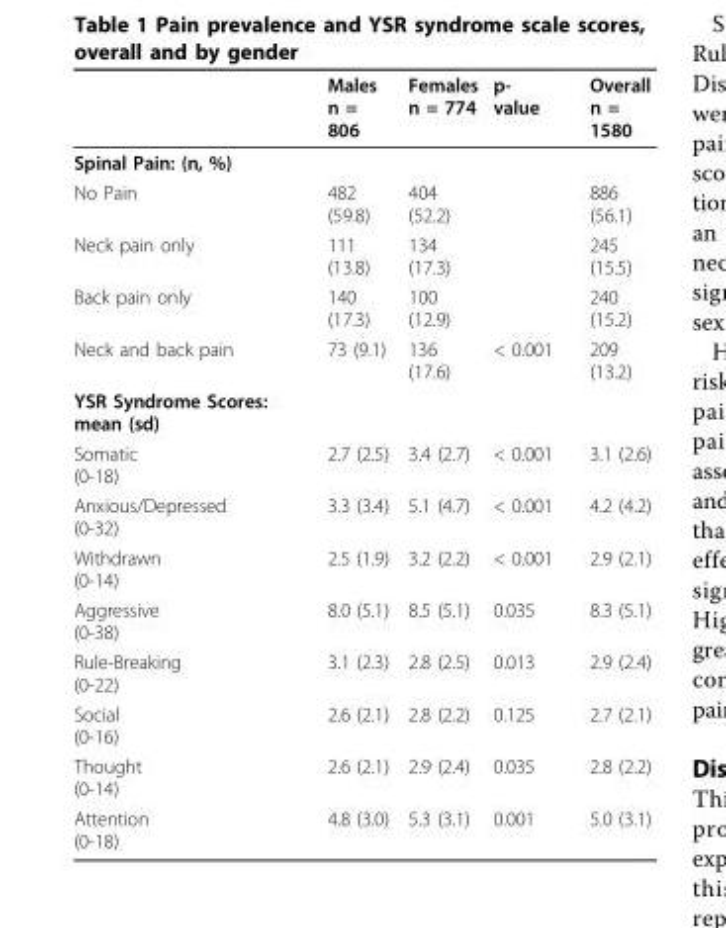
<table><thead><tr><td></td><td>Males n = 806</td><td>Females n = 774</td><td>p- value</td><td>Overall n = 1580</td></tr></thead><tbody><tr><td colspan="5">Spinal Pain: (n, %)</td></tr><tr><td>No Pain</td><td>482 (59.8)</td><td>404 (52.2)</td><td></td><td>886 (56.1)</td></tr><tr><td>Neck pain only</td><td>111 (13.8)</td><td>134 (17.3)</td><td></td><td>245 (15.5)</td></tr><tr><td>Back pain only</td><td>140 (17.3)</td><td>100 (12.9)</td><td></td><td>240 (15.2)</td></tr><tr><td>Neck and back pain</td><td>73 (9.1)</td><td>136 (17.6)</td><td>&lt; 0.001</td><td>209 (13.2)</td></tr><tr><td colspan="5">YSR Syndrome Scores: mean (sd)</td></tr><tr><td>Somatic (0-18)</td><td>2.7 (2.5)</td><td>3.4 (2.7)</td><td>&lt; 0.001</td><td>3.1 (2.6)</td></tr><tr><td>Anxious/Depressed (0-32)</td><td>3.3 (3.4)</td><td>5.1 (4.7)</td><td>&lt; 0.001</td><td>4.2 (4.2)</td></tr><tr><td>Withdrawn (0-14)</td><td>2.5 (1.9)</td><td>3.2 (2.2)</td><td>&lt; 0.001</td><td>2.9 (2.1)</td></tr><tr><td>Aggressive (0-38)</td><td>8.0 (5.1)</td><td>8.5 (5.1)</td><td>0.035</td><td>8.3 (5.1)</td></tr><tr><td>Rule-Breaking (0-22)</td><td>3.1 (2.3)</td><td>2.8 (2.5)</td><td>0.013</td><td>2.9 (2.4)</td></tr><tr><td>Social (0-16)</td><td>2.6 (2.1)</td><td>2.8 (2.2)</td><td>0.125</td><td>2.7 (2.1)</td></tr><tr><td>Thought (0-14)</td><td>2.6 (2.1)</td><td>2.9 (2.4)</td><td>0.035</td><td>2.8 (2.2)</td></tr><tr><td>Attention (0-18)</td><td>4.8 (3.0)</td><td>5.3 (3.1)</td><td>0.001</td><td>5.0 (3.1)</td></tr></tbody></table>